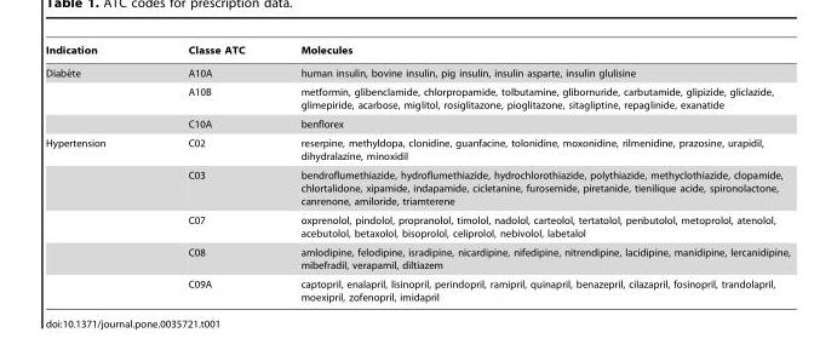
<table><thead><tr><td>Indication</td><td>Classe ATC</td><td>Molecules</td></tr></thead><tbody><tr><td rowspan="3">Diabe`te</td><td>A10A</td><td>human insulin, bovine insulin, pig insulin, insulin asparte, insulin glulisine</td></tr><tr><td>A10B</td><td>metformin, glibenclamide, chlorpropamide, tolbutamine, glibornuride, carbutamide, glipizide, gliclazide, glimepiride, acarbose, miglitol, rosiglitazone, pioglitazone, sitagliptine, repaglinide, exanatide</td></tr><tr><td>C10A</td><td>benflorex</td></tr><tr><td rowspan="5">Hypertension</td><td>C02</td><td>reserpine, methyldopa, clonidine, guanfacine, tolonidine, moxonidine, rilmenidine, prazosine, urapidil, dihydralazine, minoxidil</td></tr><tr><td>C03</td><td>bendroflumethiazide, hydroflumethiazide, hydrochlorothiazide, polythiazide, methyclothiazide, clopamide, chlortalidone, xipamide, indapamide, cicletanine, furosemide, piretanide, tienilique acide, spironolactone, canrenone, amiloride, triamterene</td></tr><tr><td>C07</td><td>oxprenolol, pindolol, propranolol, timolol, nadolol, carteolol, tertatolol, penbutolol, metoprolol, atenolol, acebutolol, betaxolol, bisoprolol, celiprolol, nebivolol, labetalol</td></tr><tr><td>C08</td><td>amlodipine, felodipine, isradipine, nicardipine, nifedipine, nitrendipine, lacidipine, manidipine, lercanidipine, mibefradil, verapamil, diltiazem</td></tr><tr><td>C09A</td><td>captopril, enalapril, lisinopril, perindopril, ramipril, quinapril, benazepril, cilazapril, fosinopril, trandolapril, moexipril, zofenopril, imidapril</td></tr></tbody></table>